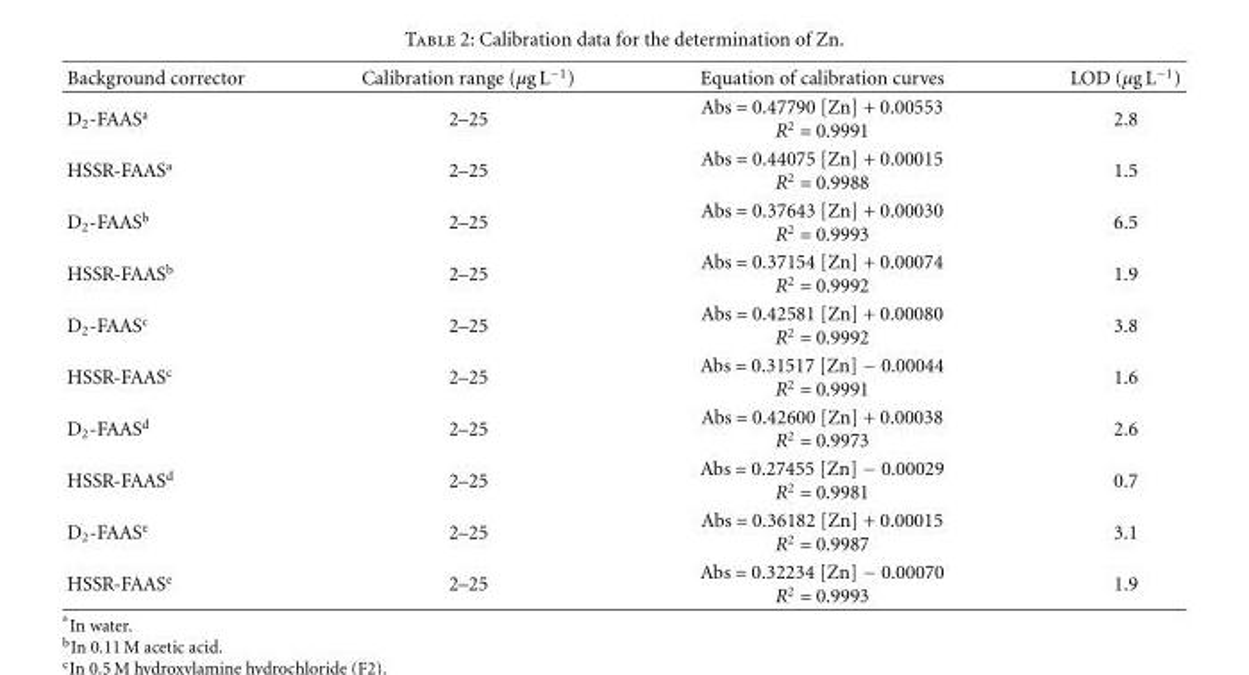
<table><thead><tr><td>Background corrector</td><td>Calibration range (µg L<sup>−1</sup>)</td><td>Equation of calibration curves</td><td>LOD (µg L<sup>−1</sup>)</td></tr></thead><tbody><tr><td>D<sub>2</sub>-FAAS<sup>a</sup></td><td>2–25</td><td>Abs = 0.47790 [Zn] + 0.00553 R<sup>2</sup> = 0.9991</td><td>2.8</td></tr><tr><td>HSSR-FAAS<sup>a</sup></td><td>2–25</td><td>Abs = 0.44075 [Zn] + 0.00015 R<sup>2</sup> = 0.9988</td><td>1.5</td></tr><tr><td>D<sub>2</sub>-FAAS<sup>b</sup></td><td>2–25</td><td>Abs = 0.37643 [Zn] + 0.00030 R<sup>2</sup> = 0.9993</td><td>6.5</td></tr><tr><td>HSSR-FAAS<sup>b</sup></td><td>2–25</td><td>Abs = 0.37154 [Zn] + 0.00074 R<sup>2</sup> = 0.9992</td><td>1.9</td></tr><tr><td>D<sub>2</sub>-FAAS<sup>c</sup></td><td>2–25</td><td>Abs = 0.42581 [Zn] + 0.00080 R<sup>2</sup> = 0.9992</td><td>3.8</td></tr><tr><td>HSSR-FAAS<sup>c</sup></td><td>2–25</td><td>Abs = 0.31517 [Zn] − 0.00044 R<sup>2</sup> = 0.9991</td><td>1.6</td></tr><tr><td>D<sub>2</sub>-FAAS<sup>d</sup></td><td>2–25</td><td>Abs = 0.42600 [Zn] + 0.00038 R<sup>2</sup> = 0.9973</td><td>2.6</td></tr><tr><td>HSSR-FAAS<sup>d</sup></td><td>2–25</td><td>Abs = 0.27455 [Zn] − 0.00029 R<sup>2</sup> = 0.9981</td><td>0.7</td></tr><tr><td>D<sub>2</sub>-FAAS<sup>e</sup></td><td>2–25</td><td>Abs = 0.36182 [Zn] + 0.00015 R<sup>2</sup> = 0.9987</td><td>3.1</td></tr><tr><td>HSSR-FAAS<sup>e</sup></td><td>2–25</td><td>Abs = 0.32234 [Zn] − 0.00070 R<sup>2</sup> = 0.9993</td><td>1.9</td></tr></tbody></table>